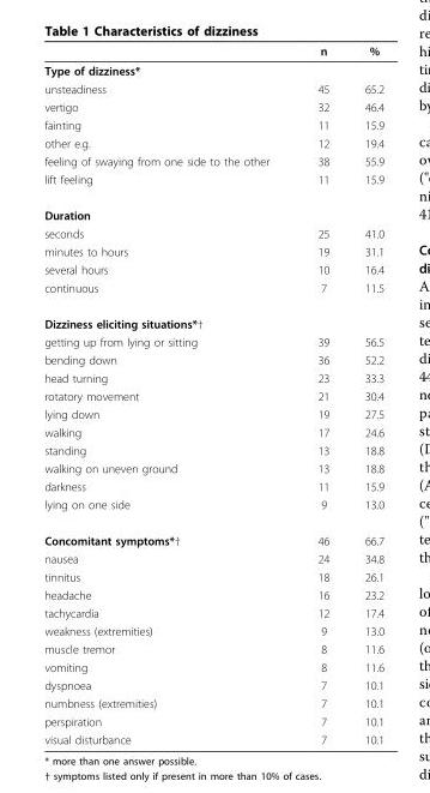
<table><thead><tr><td></td><td>n</td><td>%</td></tr></thead><tbody><tr><td colspan="3">Type of dizziness*</td></tr><tr><td>unsteadiness</td><td>45</td><td>65.2</td></tr><tr><td>vertigo</td><td>32</td><td>46.4</td></tr><tr><td>fainting</td><td>11</td><td>15.9</td></tr><tr><td>other e.g.</td><td>12</td><td>19.4</td></tr><tr><td>feeling of swaying from one side to the other</td><td>38</td><td>55.9</td></tr><tr><td>lift feeling</td><td>11</td><td>15.9</td></tr><tr><td colspan="3">Duration</td></tr><tr><td>seconds</td><td>25</td><td>41.0</td></tr><tr><td>minutes to hours</td><td>19</td><td>31.1</td></tr><tr><td>several hours</td><td>10</td><td>16.4</td></tr><tr><td>continuous</td><td>7</td><td>11.5</td></tr><tr><td colspan="3">Dizziness eliciting situations*†</td></tr><tr><td>getting up from lying or sitting</td><td>39</td><td>56.5</td></tr><tr><td>bending down</td><td>36</td><td>52.2</td></tr><tr><td>head turning</td><td>23</td><td>33.3</td></tr><tr><td>rotatory movement</td><td>21</td><td>30.4</td></tr><tr><td>lying down</td><td>19</td><td>27.5</td></tr><tr><td>walking</td><td>17</td><td>24.6</td></tr><tr><td>standing</td><td>13</td><td>18.8</td></tr><tr><td>walking on uneven ground</td><td>13</td><td>18.8</td></tr><tr><td>darkness</td><td>11</td><td>15.9</td></tr><tr><td>lying on one side</td><td>9</td><td>13.0</td></tr><tr><td>Concomitant symptoms*†</td><td>46</td><td>66.7</td></tr><tr><td>nausea</td><td>24</td><td>34.8</td></tr><tr><td>tinnitus</td><td>18</td><td>26.1</td></tr><tr><td>headache</td><td>16</td><td>23.2</td></tr><tr><td>tachycardia</td><td>12</td><td>17.4</td></tr><tr><td>weakness (extremities)</td><td>9</td><td>13.0</td></tr><tr><td>muscle tremor</td><td>8</td><td>11.6</td></tr><tr><td>vomiting</td><td>8</td><td>11.6</td></tr><tr><td>dyspnoea</td><td>7</td><td>10.1</td></tr><tr><td>numbness (extremities)</td><td>7</td><td>10.1</td></tr><tr><td>perspiration</td><td>7</td><td>10.1</td></tr><tr><td>visual disturbance</td><td>7</td><td>10.1</td></tr></tbody></table>